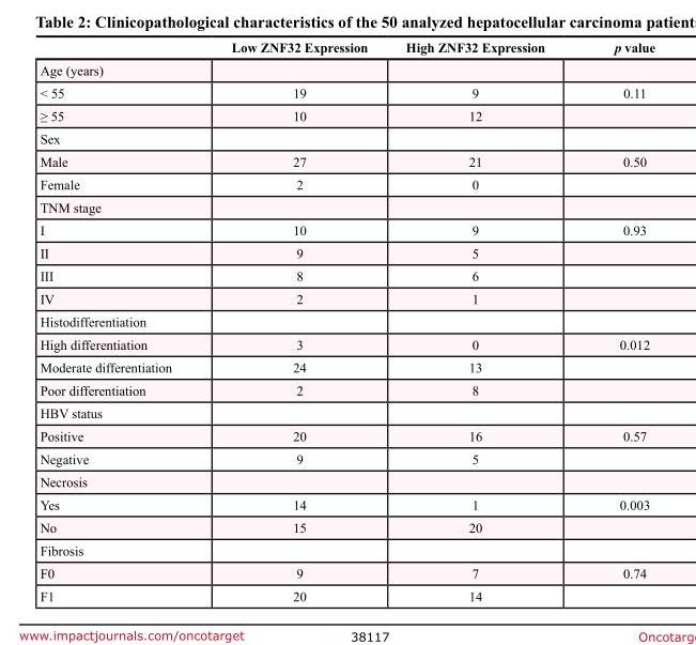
<table><thead><tr><td></td><td>Low ZNF32 Expression</td><td>High ZNF32 Expression</td><td>p value</td></tr></thead><tbody><tr><td colspan="4">Age (years)</td></tr><tr><td>&lt; 55</td><td>19</td><td>9</td><td>0.11</td></tr><tr><td>≥ 55</td><td>10</td><td>12</td><td></td></tr><tr><td colspan="4">Sex</td></tr><tr><td>Male</td><td>27</td><td>21</td><td>0.50</td></tr><tr><td>Female</td><td>2</td><td>0</td><td></td></tr><tr><td colspan="4">TNM stage</td></tr><tr><td>I</td><td>10</td><td>9</td><td>0.93</td></tr><tr><td>II</td><td>9</td><td>5</td><td></td></tr><tr><td>III</td><td>8</td><td>6</td><td></td></tr><tr><td>IV</td><td>2</td><td>1</td><td></td></tr><tr><td colspan="4">Histodifferentiation</td></tr><tr><td>High differentiation</td><td>3</td><td>0</td><td>0.012</td></tr><tr><td>Moderate differentiation</td><td>24</td><td>13</td><td></td></tr><tr><td>Poor differentiation</td><td>2</td><td>8</td><td></td></tr><tr><td colspan="4">HBV status</td></tr><tr><td>Positive</td><td>20</td><td>16</td><td>0.57</td></tr><tr><td>Negative</td><td>9</td><td>5</td><td></td></tr><tr><td colspan="4">Necrosis</td></tr><tr><td>Yes</td><td>14</td><td>1</td><td>0.003</td></tr><tr><td>No</td><td>15</td><td>20</td><td></td></tr><tr><td colspan="4">Fibrosis</td></tr><tr><td>F0</td><td>9</td><td>7</td><td>0.74</td></tr><tr><td>F1</td><td>20</td><td>14</td><td></td></tr></tbody></table>